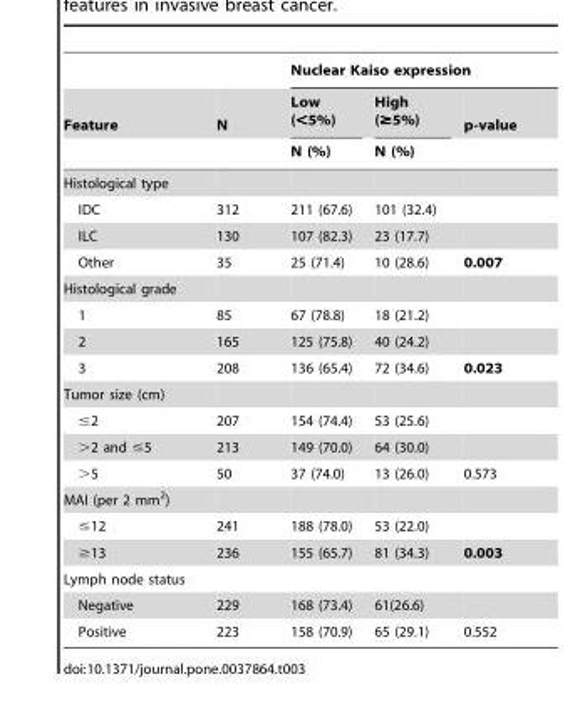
<table><thead><tr><td rowspan="3">Feature</td><td rowspan="3">N</td><td colspan="3">Nuclear Kaiso expression</td></tr><tr><td rowspan="2">Low (&lt;5%) N (%)</td><td rowspan="2">High (≥5%) N (%)</td><td rowspan="2">p-value</td></tr><tr></tr></thead><tbody><tr><td colspan="5">Histological type</td></tr><tr><td>IDC</td><td>312</td><td>211 (67.6)</td><td>101 (32.4)</td><td></td></tr><tr><td>ILC</td><td>130</td><td>107 (82.3)</td><td>23 (17.7)</td><td></td></tr><tr><td>Other</td><td>35</td><td>25 (71.4)</td><td>10 (28.6)</td><td>0.007</td></tr><tr><td colspan="5">Histological grade</td></tr><tr><td>1</td><td>85</td><td>67 (78.8)</td><td>18 (21.2)</td><td></td></tr><tr><td>2</td><td>165</td><td>125 (75.8)</td><td>40 (24.2)</td><td></td></tr><tr><td>3</td><td>208</td><td>136 (65.4)</td><td>72 (34.6)</td><td>0.023</td></tr><tr><td colspan="5">Tumor size (cm)</td></tr><tr><td>≤2</td><td>207</td><td>154 (74.4)</td><td>53 (25.6)</td><td></td></tr><tr><td>&gt;2 and ≤5</td><td>213</td><td>149 (70.0)</td><td>64 (30.0)</td><td></td></tr><tr><td>&gt;5</td><td>50</td><td>37 (74.0)</td><td>13 (26.0)</td><td>0.573</td></tr><tr><td colspan="5">MAI (per 2 mm<sup>2</sup>)</td></tr><tr><td>≤12</td><td>241</td><td>188 (78.0)</td><td>53 (22.0)</td><td></td></tr><tr><td>≥13</td><td>236</td><td>155 (65.7)</td><td>81 (34.3)</td><td>0.003</td></tr><tr><td colspan="5">Lymph node status</td></tr><tr><td>Negative</td><td>229</td><td>168 (73.4)</td><td>61(26.6)</td><td></td></tr><tr><td>Positive</td><td>223</td><td>158 (70.9)</td><td>65 (29.1)</td><td>0.552</td></tr></tbody></table>